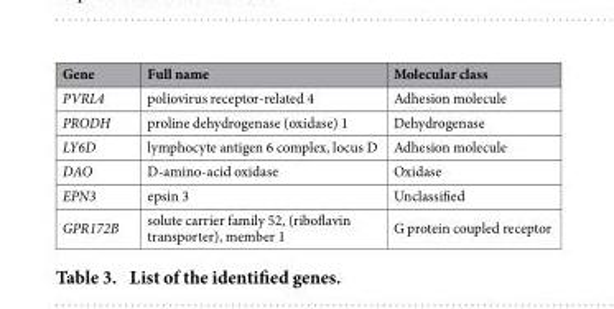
<table><thead><tr><td>Gene</td><td>Full name</td><td>Molecular class</td></tr></thead><tbody><tr><td>PVRL4</td><td>poliovirus receptor-related 4</td><td>Adhesion molecule</td></tr><tr><td>PRODH</td><td>proline dehydrogenase (oxidase) 1</td><td>Dehydrogenase</td></tr><tr><td>LY6D</td><td>lymphocyte antigen 6 complex, locus D</td><td>Adhesion molecule</td></tr><tr><td>DAO</td><td>D-amino-acid oxidase</td><td>Oxidase</td></tr><tr><td>EPN3</td><td>epsin 3</td><td>Unclassified</td></tr><tr><td>GPR172B</td><td>solute carrier family 52, (riboflavin transporter), member 1</td><td>G protein coupled receptor</td></tr></tbody></table>